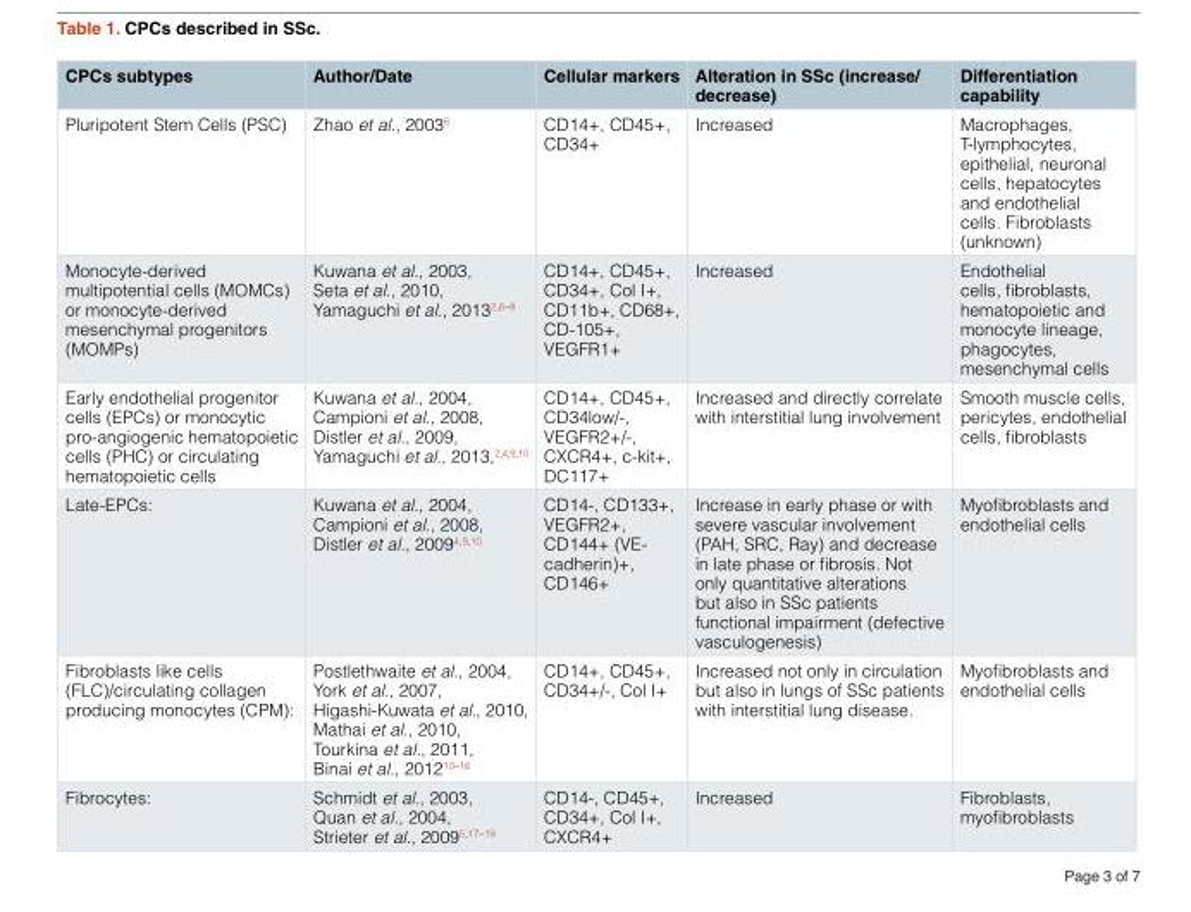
<table><thead><tr><td>CPCs subtypes</td><td>Author/Date</td><td>Cellular markers</td><td>Alteration in SSc (increase/ decrease)</td><td>Differentiation capability</td></tr></thead><tbody><tr><td>Pluripotent Stem Cells (PSC)</td><td>Zhao et al., 2003<sup>6</sup></td><td>CD14+, CD45+, CD34+</td><td>Increased</td><td>Macrophages, T-lymphocytes, epithelial, neuronal cells, hepatocytes and endothelial cells. Fibroblasts (unknown)</td></tr><tr><td>Monocyte-derived multipotential cells (MOMCs) or monocyte-derived mesenchymal progenitors (MOMPs)</td><td>Kuwana et al., 2003, Seta et al., 2010, Yamaguchi et al., 2013<sup>2,6–8</sup></td><td>CD14+, CD45+, CD34+, Col I+, CD11b+, CD68+, CD-105+, VEGFR1+</td><td>Increased</td><td>Endothelial cells, fibroblasts, hematopoietic and monocyte lineage, phagocytes, mesenchymal cells</td></tr><tr><td>Early endothelial progenitor cells (EPCs) or monocytic pro-angiogenic hematopoietic cells (PHC) or circulating hematopoietic cells</td><td>Kuwana et al., 2004, Campioni et al., 2008, Distler et al., 2009, Yamaguchi et al., 2013,<sup>2,4,9,10</sup></td><td>CD14+, CD45+, CD34low/-, VEGFR2+/-, CXCR4+, c-kit+, DC117+</td><td>Increased and directly correlate with interstitial lung involvement</td><td>Smooth muscle cells, pericytes, endothelial cells, fibroblasts</td></tr><tr><td>Late-EPCs:</td><td>Kuwana et al., 2004, Campioni et al., 2008, Distler et al., 2009<sup>4,9,10</sup></td><td>CD14-, CD133+, VEGFR2+, CD144+ (VE- cadherin)+, CD146+</td><td>Increase in early phase or with severe vascular involvement (PAH, SRC, Ray) and decrease in late phase or fibrosis. Not only quantitative alterations but also in SSc patients functional impairment (defective vasculogenesis)</td><td>Myofibroblasts and endothelial cells</td></tr><tr><td>Fibroblasts like cells (FLC)/circulating collagen producing monocytes (CPM):</td><td>Postlethwaite et al., 2004, York et al., 2007, Higashi-Kuwata et al., 2010, Mathai et al., 2010, Tourkina et al., 2011, Binai et al., 2012<sup>10–16</sup></td><td>CD14+, CD45+, CD34+/-, Col I+</td><td>Increased not only in circulation but also in lungs of SSc patients with interstitial lung disease.</td><td>Myofibroblasts and endothelial cells</td></tr><tr><td>Fibrocytes:</td><td>Schmidt et al., 2003, Quan et al., 2004, Strieter et al., 2009<sup>5,17–19</sup></td><td>CD14-, CD45+, CD34+, Col I+, CXCR4+</td><td>Increased</td><td>Fibroblasts, myofibroblasts</td></tr></tbody></table>